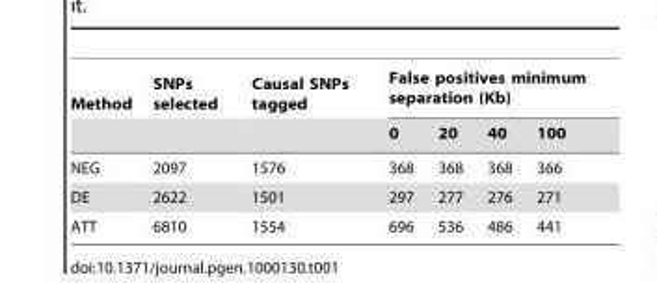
<table><thead><tr><td rowspan="2">Method</td><td rowspan="2">SNPs selected</td><td rowspan="2">Causal SNPs tagged</td><td colspan="4">False positives minimum separation (Kb)</td></tr><tr><td>0</td><td>20</td><td>40</td><td>100</td></tr></thead><tbody><tr><td>NEG</td><td>2097</td><td>1576</td><td>368</td><td>368</td><td>368</td><td>366</td></tr><tr><td>DE</td><td>2622</td><td>1501</td><td>297</td><td>277</td><td>276</td><td>271</td></tr><tr><td>ATT</td><td>6810</td><td>1554</td><td>696</td><td>536</td><td>486</td><td>441</td></tr></tbody></table>